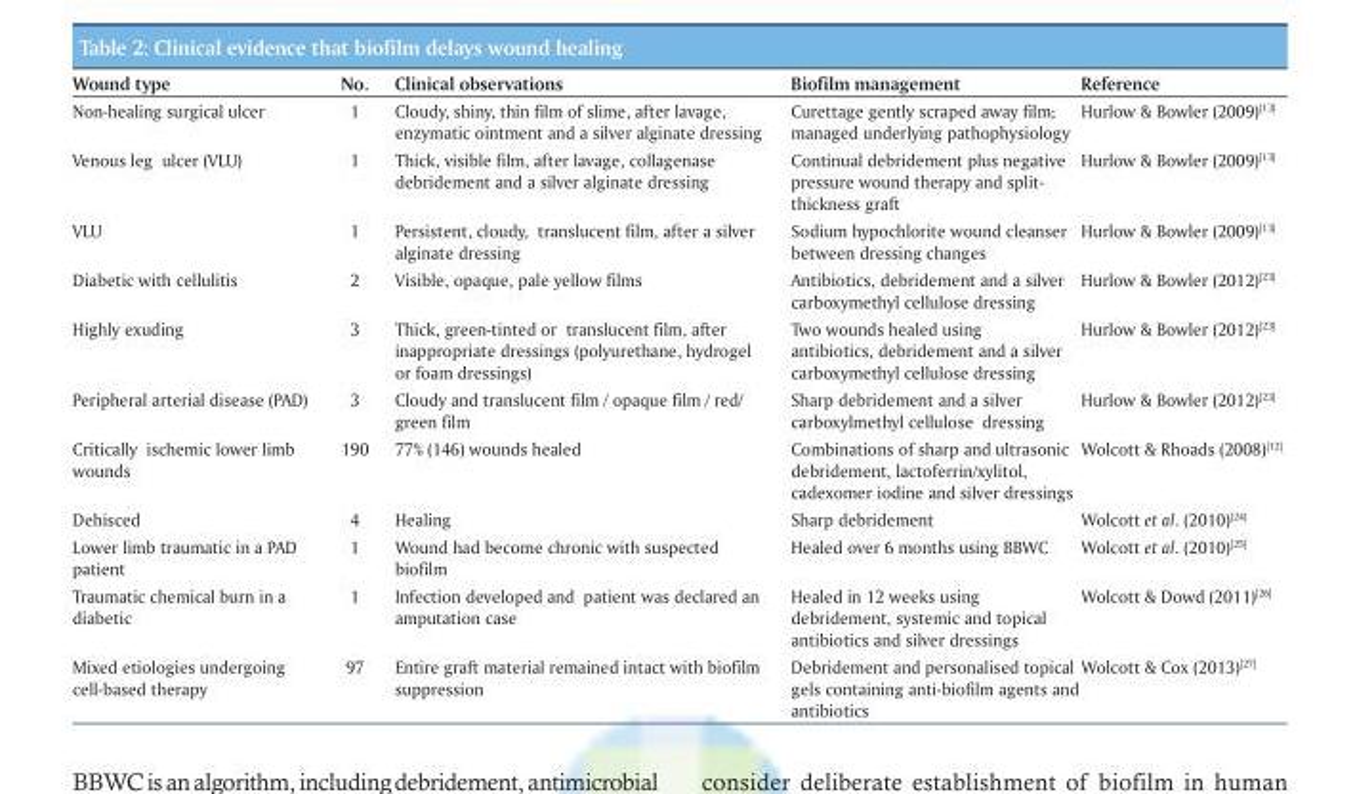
<table><thead><tr><td>Wound type</td><td>No.</td><td>Clinical observations</td><td>Biofilm management</td><td>Reference</td></tr></thead><tbody><tr><td>Non-healing surgical ulcer</td><td>1</td><td>Cloudy, shiny, thin film of slime, after lavage, enzymatic ointment and a silver alginate dressing</td><td>Curettage gently scraped away film; managed underlying pathophysiology</td><td>Hurlow &amp; Bowler (2009)[13]</td></tr><tr><td>Venous leg ulcer (VLU)</td><td>1</td><td>Thick, visible film, after lavage, collagenase debridement and a silver alginate dressing</td><td>Continual debridement plus negative pressure wound therapy and split- thickness graft</td><td>Hurlow &amp; Bowler (2009)[13]</td></tr><tr><td>VLU</td><td>1</td><td>Persistent, cloudy, translucent film, after a silver alginate dressing</td><td>Sodium hypochlorite wound cleanser between dressing changes</td><td>Hurlow &amp; Bowler (2009)[13]</td></tr><tr><td>Diabetic with cellulitis</td><td>2</td><td>Visible, opaque, pale yellow films</td><td>Antibiotics, debridement and a silver carboxymethyl cellulose dressing</td><td>Hurlow &amp; Bowler (2012)[23]</td></tr><tr><td>Highly exuding</td><td>3</td><td>Thick, green-tinted or translucent film, after inappropriate dressings (polyurethane, hydrogel or foam dressings)</td><td>Two wounds healed using antibiotics, debridement and a silver carboxymethyl cellulose dressing</td><td>Hurlow &amp; Bowler (2012)[23]</td></tr><tr><td>Peripheral arterial disease (PAD)</td><td>3</td><td>Cloudy and translucent film / opaque film / red/ green film</td><td>Sharp debridement and a silver carboxylmethyl cellulose dressing</td><td>Hurlow &amp; Bowler (2012)[23]</td></tr><tr><td>Critically ischemic lower limb wounds</td><td>190</td><td>77% (146) wounds healed</td><td>Combinations of sharp and ultrasonic debridement, lactoferrin/xylitol, cadexomer iodine and silver dressings</td><td>Wolcott &amp; Rhoads (2008)[12]</td></tr><tr><td>Dehisced</td><td>4</td><td>Healing</td><td>Sharp debridement</td><td>Wolcott et al. (2010)[24]</td></tr><tr><td>Lower limb traumatic in a PAD patient</td><td>1</td><td>Wound had become chronic with suspected biofilm</td><td>Healed over 6 months using BBWC</td><td>Wolcott et al. (2010)[25]</td></tr><tr><td>Traumatic chemical burn in a diabetic</td><td>1</td><td>Infection developed and patient was declared an amputation case</td><td>Healed in 12 weeks using debridement, systemic and topical antibiotics and silver dressings</td><td>Wolcott &amp; Dowd (2011)[26]</td></tr><tr><td>Mixed etiologies undergoing cell-based therapy</td><td>97</td><td>Entire graft material remained intact with biofilm suppression</td><td>Debridement and personalised topical gels containing anti-biofilm agents and antibiotics</td><td>Wolcott &amp; Cox (2013)[27]</td></tr></tbody></table>